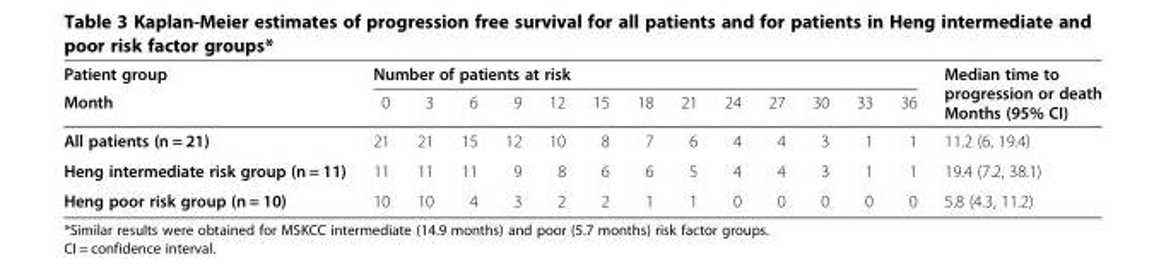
<table><thead><tr><td rowspan="2">Patient group Month</td><td colspan="13">Number of patients at risk</td><td rowspan="2">Median time to progression or death Months (95% CI)</td></tr><tr><td>0</td><td>3</td><td>6</td><td>9</td><td>12</td><td>15</td><td>18</td><td>21</td><td>24</td><td>27</td><td>30</td><td>33</td><td>36</td></tr></thead><tbody><tr><td>All patients (n = 21)</td><td>21</td><td>21</td><td>15</td><td>12</td><td>10</td><td>8</td><td>7</td><td>6</td><td>4</td><td>4</td><td>3</td><td>1</td><td>1</td><td>11.2 (6, 19.4)</td></tr><tr><td>Heng intermediate risk group (n = 11)</td><td>11</td><td>11</td><td>11</td><td>9</td><td>8</td><td>6</td><td>6</td><td>5</td><td>4</td><td>4</td><td>3</td><td>1</td><td>1</td><td>19.4 (7.2, 38.1)</td></tr><tr><td>Heng poor risk group (n = 10)</td><td>10</td><td>10</td><td>4</td><td>3</td><td>2</td><td>2</td><td>1</td><td>1</td><td>0</td><td>0</td><td>0</td><td>0</td><td>0</td><td>5.8 (4.3, 11.2)</td></tr></tbody></table>